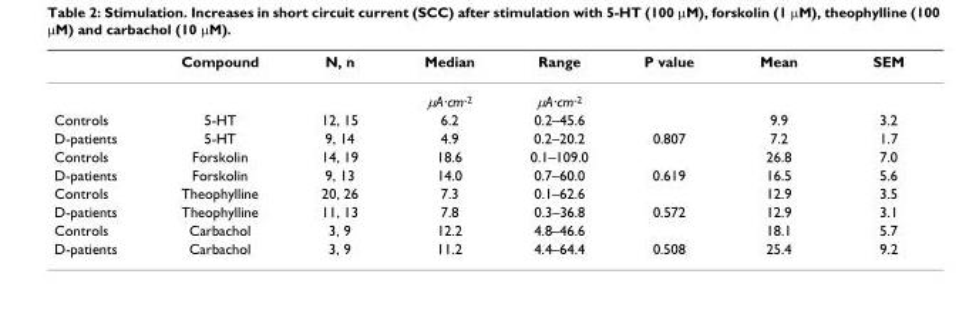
<table><thead><tr><td></td><td>Compound</td><td>N, n</td><td>Median</td><td>Range</td><td>P value</td><td>Mean</td><td>SEM</td></tr></thead><tbody><tr><td></td><td></td><td></td><td>μA·cm<sup>-2</sup></td><td>μA·cm<sup>-2</sup></td><td></td><td></td><td></td></tr><tr><td>Controls</td><td>5-HT</td><td>12, 15</td><td>6.2</td><td>0.2–45.6</td><td></td><td>9.9</td><td>3.2</td></tr><tr><td>D-patients</td><td>5-HT</td><td>9, 14</td><td>4.9</td><td>0.2–20.2</td><td>0.807</td><td>7.2</td><td>1.7</td></tr><tr><td>Controls</td><td>Forskolin</td><td>14, 19</td><td>18.6</td><td>0.1–109.0</td><td></td><td>26.8</td><td>7.0</td></tr><tr><td>D-patients</td><td>Forskolin</td><td>9, 13</td><td>14.0</td><td>0.7–60.0</td><td>0.619</td><td>16.5</td><td>5.6</td></tr><tr><td>Controls</td><td>Theophylline</td><td>20, 26</td><td>7.3</td><td>0.1–62.6</td><td></td><td>12.9</td><td>3.5</td></tr><tr><td>D-patients</td><td>Theophylline</td><td>11, 13</td><td>7.8</td><td>0.3–36.8</td><td>0.572</td><td>12.9</td><td>3.1</td></tr><tr><td>Controls</td><td>Carbachol</td><td>3, 9</td><td>12.2</td><td>4.8–46.6</td><td></td><td>18.1</td><td>5.7</td></tr><tr><td>D-patients</td><td>Carbachol</td><td>3, 9</td><td>11.2</td><td>4.4–64.4</td><td>0.508</td><td>25.4</td><td>9.2</td></tr></tbody></table>